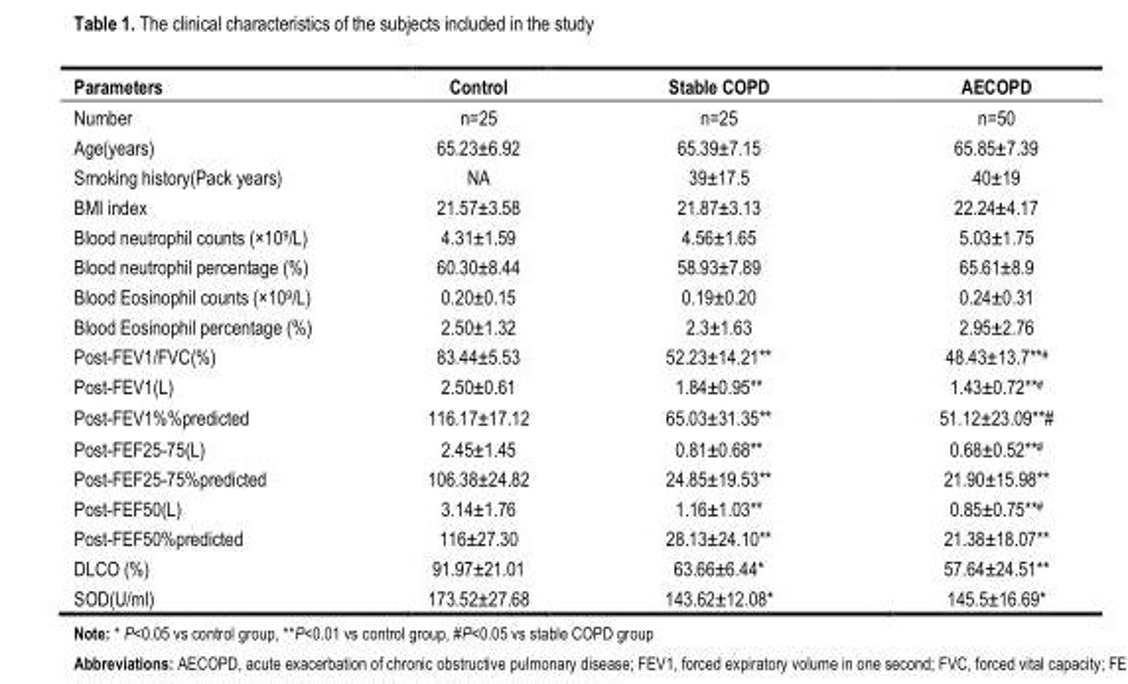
<table><thead><tr><td>Parameters</td><td>Control</td><td>Stable COPD</td><td>AECOPD</td></tr></thead><tbody><tr><td>Number</td><td>n=25</td><td>n=25</td><td>n=50</td></tr><tr><td>Age(years)</td><td>65.23±6.92</td><td>65.39±7.15</td><td>65.85±7.39</td></tr><tr><td>Smoking history(Pack years)</td><td>NA</td><td>39±17.5</td><td>40±19</td></tr><tr><td>BMI index</td><td>21.57±3.58</td><td>21.87±3.13</td><td>22.24±4.17</td></tr><tr><td>Blood neutrophil counts (×10<sup>9</sup>/L)</td><td>4.31±1.59</td><td>4.56±1.65</td><td>5.03±1.75</td></tr><tr><td>Blood neutrophil percentage (%)</td><td>60.30±8.44</td><td>58.93±7.89</td><td>65.61±8.9</td></tr><tr><td>Blood Eosinophil counts (×10<sup>9</sup>/L)</td><td>0.20±0.15</td><td>0.19±0.20</td><td>0.24±0.31</td></tr><tr><td>Blood Eosinophil percentage (%)</td><td>2.50±1.32</td><td>2.3±1.63</td><td>2.95±2.76</td></tr><tr><td>Post-FEV1/FVC(%)</td><td>83.44±5.53</td><td>52.23±14.21**</td><td>48.43±13.7<sup>**#</sup></td></tr><tr><td>Post-FEV1(L)</td><td>2.50±0.61</td><td>1.84±0.95**</td><td>1.43±0.72**#</td></tr><tr><td>Post-FEV1%%predicted</td><td>116.17±17.12</td><td>65.03±31.35**</td><td>51.12±23.09**#</td></tr><tr><td>Post-FEF25-75(L)</td><td>2.45±1.45</td><td>0.81±0.68**</td><td>0.68±0.52**#</td></tr><tr><td>Post-FEF25-75%predicted</td><td>106.38±24.82</td><td>24.85±19.53**</td><td>21.90±15.98**</td></tr><tr><td>Post-FEF50(L)</td><td>3.14±1.76</td><td>1.16±1.03**</td><td>0.85±0.75**#</td></tr><tr><td>Post-FEF50%predicted</td><td>116±27.30</td><td>28.13±24.10**</td><td>21.38±18.07**</td></tr><tr><td>DLCO (%)</td><td>91.97±21.01</td><td>63.66±6.44*</td><td>57.64±24.51**</td></tr><tr><td>SOD(U/ml)</td><td>173.52±27.68</td><td>143.62±12.08*</td><td>145.5±16.69*</td></tr></tbody></table>